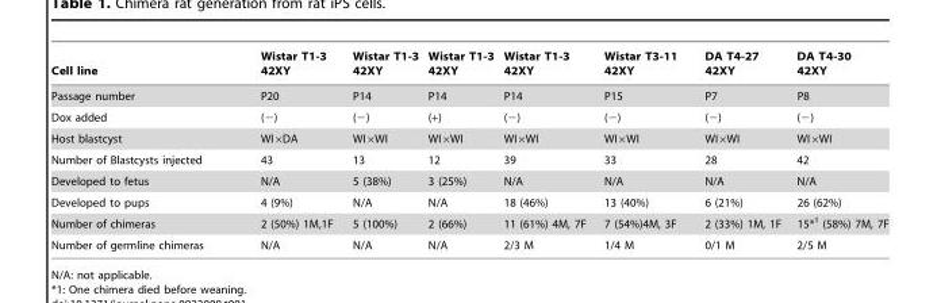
<table><thead><tr><td>Cell line</td><td>Wistar T1-3 42XY</td><td>Wistar T1-3 42XY</td><td>Wistar T1-3 42XY</td><td>Wistar T1-3 42XY</td><td>Wistar T3-11 42XY</td><td>DA T4-27 42XY</td><td>DA T4-30 42XY</td></tr></thead><tbody><tr><td>Passage number</td><td>P20</td><td>P14</td><td>P14</td><td>P14</td><td>P15</td><td>P7</td><td>P8</td></tr><tr><td>Dox added</td><td>(−)</td><td>(−)</td><td>(+)</td><td>(−)</td><td>(−)</td><td>(−)</td><td>(−)</td></tr><tr><td>Host blastcyst</td><td>WI×DA</td><td>WI×WI</td><td>WI×WI</td><td>WI×WI</td><td>WI×WI</td><td>WI×WI</td><td>WI×WI</td></tr><tr><td>Number of Blastcysts injected</td><td>43</td><td>13</td><td>12</td><td>39</td><td>33</td><td>28</td><td>42</td></tr><tr><td>Developed to fetus</td><td>N/A</td><td>5 (38%)</td><td>3 (25%)</td><td>N/A</td><td>N/A</td><td>N/A</td><td>N/A</td></tr><tr><td>Developed to pups</td><td>4 (9%)</td><td>N/A</td><td>N/A</td><td>18 (46%)</td><td>13 (40%)</td><td>6 (21%)</td><td>26 (62%)</td></tr><tr><td>Number of chimeras</td><td>2 (50%) 1M,1F</td><td>5 (100%)</td><td>2 (66%)</td><td>11 (61%) 4M, 7F</td><td>7 (54%)4M, 3F</td><td>2 (33%) 1M, 1F</td><td>15*1 (58%) 7M, 7F</td></tr><tr><td>Number of germline chimeras</td><td>N/A</td><td>N/A</td><td>N/A</td><td>2/3 M</td><td>1/4 M</td><td>0/1 M</td><td>2/5 M</td></tr></tbody></table>